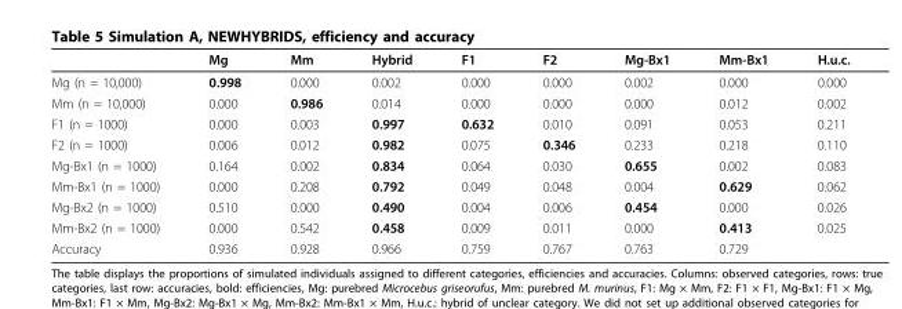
<table><thead><tr><td></td><td>Mg</td><td>Mm</td><td>Hybrid</td><td>F1</td><td>F2</td><td>Mg-Bx1</td><td>Mm-Bx1</td><td>H.u.c.</td></tr></thead><tbody><tr><td>Mg (n = 10,000)</td><td>0.998</td><td>0.000</td><td>0.002</td><td>0.000</td><td>0.000</td><td>0.002</td><td>0.000</td><td>0.000</td></tr><tr><td>Mm (n = 10,000)</td><td>0.000</td><td>0.986</td><td>0.014</td><td>0.000</td><td>0.000</td><td>0.000</td><td>0.012</td><td>0.002</td></tr><tr><td>F1 (n = 1000)</td><td>0.000</td><td>0.003</td><td>0.997</td><td>0.632</td><td>0.010</td><td>0.091</td><td>0.053</td><td>0.211</td></tr><tr><td>F2 (n = 1000)</td><td>0.006</td><td>0.012</td><td>0.982</td><td>0.075</td><td>0.346</td><td>0.233</td><td>0.218</td><td>0.110</td></tr><tr><td>Mg-Bx1 (n = 1000)</td><td>0.164</td><td>0.002</td><td>0.834</td><td>0.064</td><td>0.030</td><td>0.655</td><td>0.002</td><td>0.083</td></tr><tr><td>Mm-Bx1 (n = 1000)</td><td>0.000</td><td>0.208</td><td>0.792</td><td>0.049</td><td>0.048</td><td>0.004</td><td>0.629</td><td>0.062</td></tr><tr><td>Mg-Bx2 (n = 1000)</td><td>0.510</td><td>0.000</td><td>0.490</td><td>0.004</td><td>0.006</td><td>0.454</td><td>0.000</td><td>0.026</td></tr><tr><td>Mm-Bx2 (n = 1000)</td><td>0.000</td><td>0.542</td><td>0.458</td><td>0.009</td><td>0.011</td><td>0.000</td><td>0.413</td><td>0.025</td></tr><tr><td>Accuracy</td><td>0.936</td><td>0.928</td><td>0.966</td><td>0.759</td><td>0.767</td><td>0.763</td><td>0.729</td><td></td></tr></tbody></table>